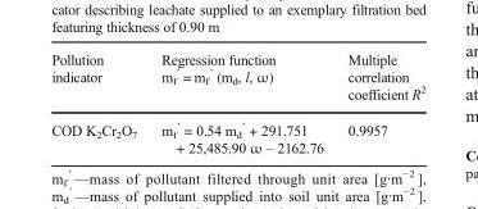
<table><thead><tr><td>Pollution indicator</td><td>Regression function m<sub>f</sub> <sup>’</sup> = m<sub>f</sub> <sup>’</sup> (m<sub>d</sub>, l, ω)</td><td>Multiple correlation coefficient R<sup>2</sup></td></tr></thead><tbody><tr><td>COD K<sub>2</sub>Cr<sub>2</sub>O<sub>7</sub></td><td>m<sub>f</sub> <sup>’</sup> = 0.54 m<sub>d</sub> <sup>’</sup> + 291.751 + 25,485.90 ω – 2162.76</td><td>0.9957</td></tr></tbody></table>